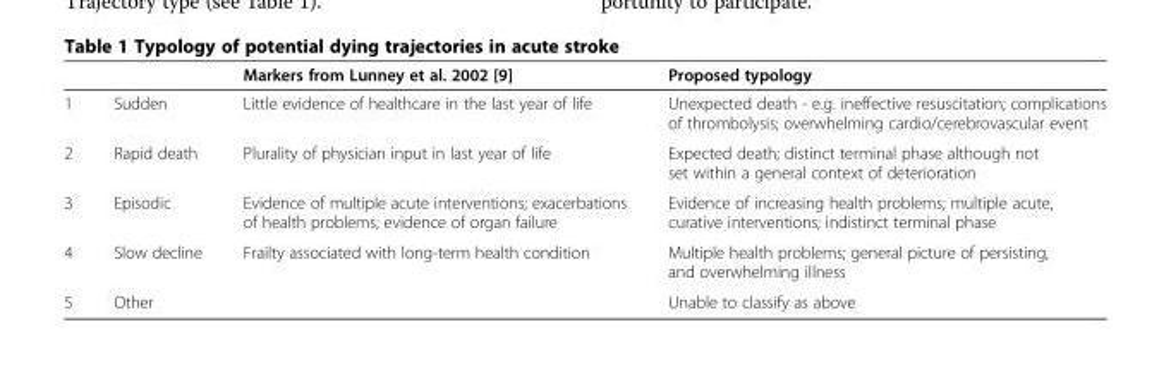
<table><thead><tr><td></td><td></td><td>Markers from Lunney et al. 2002 [9]</td><td>Proposed typology</td></tr></thead><tbody><tr><td>1</td><td>Sudden</td><td>Little evidence of healthcare in the last year of life</td><td>Unexpected death - e.g. ineffective resuscitation; complications of thrombolysis; overwhelming cardio/cerebrovascular event</td></tr><tr><td>2</td><td>Rapid death</td><td>Plurality of physician input in last year of life</td><td>Expected death; distinct terminal phase although not set within a general context of deterioration</td></tr><tr><td>3</td><td>Episodic</td><td>Evidence of multiple acute interventions; exacerbations of health problems; evidence of organ failure</td><td>Evidence of increasing health problems; multiple acute, curative interventions; indistinct terminal phase</td></tr><tr><td>4</td><td>Slow decline</td><td>Frailty associated with long-term health condition</td><td>Multiple health problems; general picture of persisting, and overwhelming illness</td></tr><tr><td>5</td><td>Other</td><td></td><td>Unable to classify as above</td></tr></tbody></table>